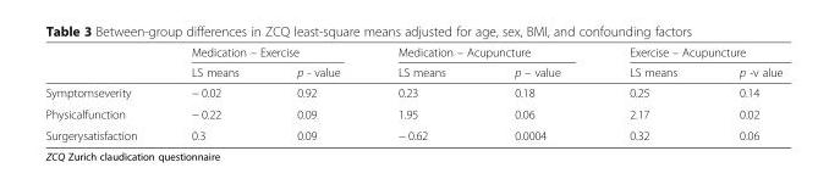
<table><thead><tr><td rowspan="2"></td><td colspan="2">Medication – Exercise</td><td colspan="2">Medication – Acupuncture</td><td colspan="2">Exercise – Acupuncture</td></tr><tr><td>LS means</td><td>p - value</td><td>LS means</td><td>p – value</td><td>LS means</td><td>p -v alue</td></tr></thead><tbody><tr><td>Symptomseverity</td><td>− 0.02</td><td>0.92</td><td>0.23</td><td>0.18</td><td>0.25</td><td>0.14</td></tr><tr><td>Physicalfunction</td><td>− 0.22</td><td>0.09</td><td>1.95</td><td>0.06</td><td>2.17</td><td>0.02</td></tr><tr><td>Surgerysatisfaction</td><td>0.3</td><td>0.09</td><td>− 0.62</td><td>0.0004</td><td>0.32</td><td>0.06</td></tr></tbody></table>